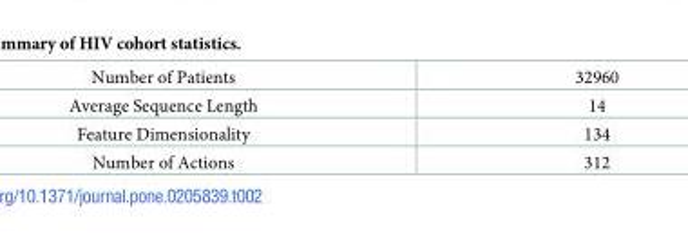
<table><tbody><tr><td>Number of Patients</td><td>32960</td></tr><tr><td>Average Sequence Length</td><td>14</td></tr><tr><td>Feature Dimensionality</td><td>134</td></tr><tr><td>Number of Actions</td><td>312</td></tr></tbody></table>